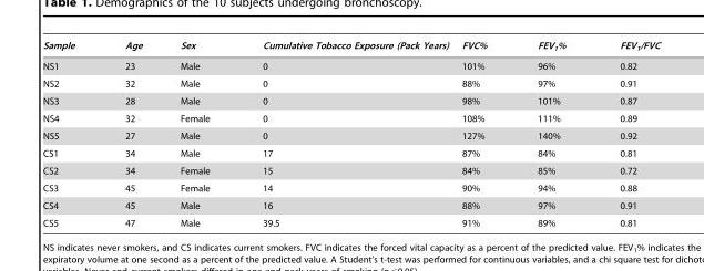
<table><thead><tr><td>Sample</td><td>Age</td><td>Sex</td><td>Cumulative Tobacco Exposure (Pack Years)</td><td>FVC%</td><td>FEV<sub>1</sub>%</td><td>FEV<sub>1</sub>/FVC</td></tr></thead><tbody><tr><td>NS1</td><td>23</td><td>Male</td><td>0</td><td>101%</td><td>96%</td><td>0.82</td></tr><tr><td>NS2</td><td>32</td><td>Male</td><td>0</td><td>88%</td><td>97%</td><td>0.91</td></tr><tr><td>NS3</td><td>28</td><td>Male</td><td>0</td><td>98%</td><td>101%</td><td>0.87</td></tr><tr><td>NS4</td><td>32</td><td>Female</td><td>0</td><td>108%</td><td>111%</td><td>0.89</td></tr><tr><td>NS5</td><td>27</td><td>Male</td><td>0</td><td>127%</td><td>140%</td><td>0.92</td></tr><tr><td>CS1</td><td>34</td><td>Male</td><td>17</td><td>87%</td><td>84%</td><td>0.81</td></tr><tr><td>CS2</td><td>34</td><td>Female</td><td>15</td><td>84%</td><td>85%</td><td>0.72</td></tr><tr><td>CS3</td><td>45</td><td>Female</td><td>14</td><td>90%</td><td>94%</td><td>0.88</td></tr><tr><td>CS4</td><td>45</td><td>Male</td><td>16</td><td>88%</td><td>97%</td><td>0.91</td></tr><tr><td>CS5</td><td>47</td><td>Male</td><td>39.5</td><td>91%</td><td>89%</td><td>0.81</td></tr></tbody></table>